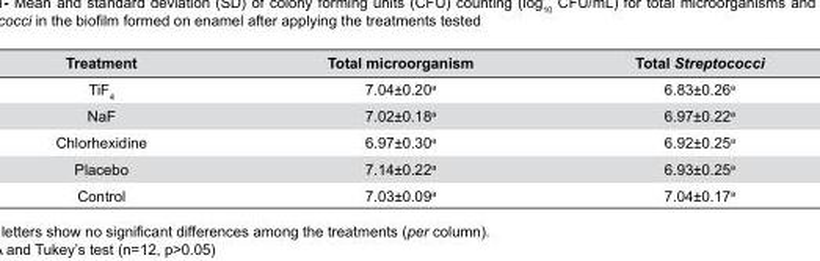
<table><thead><tr><td>Treatment</td><td>Total microorganism</td><td>Total Streptococci</td></tr></thead><tbody><tr><td>TiF<sub>4</sub></td><td>7.04±0.20<sup>a</sup></td><td>6.83±0.26<sup>a</sup></td></tr><tr><td>NaF</td><td>7.02±0.18<sup>a</sup></td><td>6.97±0.22<sup>a</sup></td></tr><tr><td>Chlorhexidine</td><td>6.97±0.30<sup>a</sup></td><td>6.92±0.25<sup>a</sup></td></tr><tr><td>Placebo</td><td>7.14±0.22<sup>a</sup></td><td>6.93±0.25<sup>a</sup></td></tr><tr><td>Control</td><td>7.03±0.09<sup>a</sup></td><td>7.04±0.17<sup>a</sup></td></tr></tbody></table>